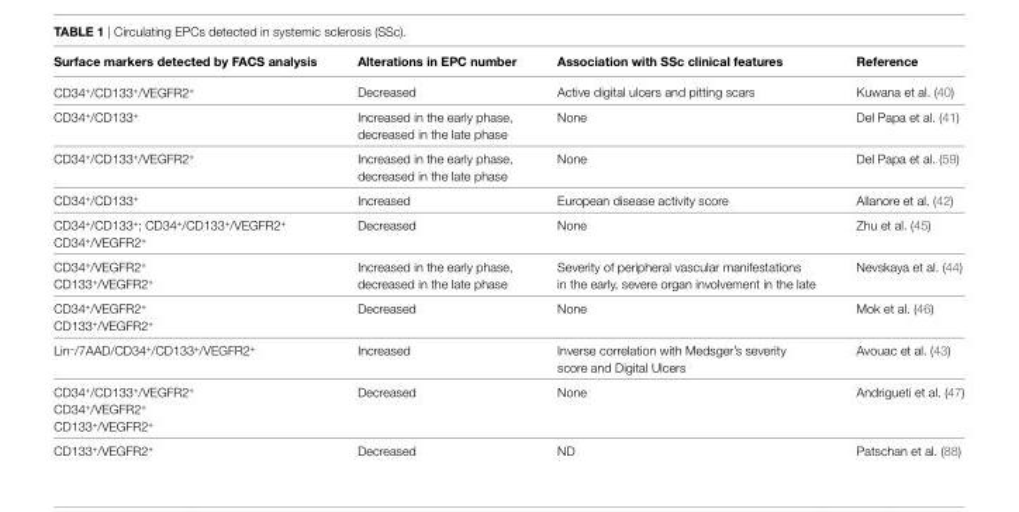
<table><thead><tr><td>Surface markers detected by FACS analysis</td><td>Alterations in ePC number</td><td>Association with SSc clinical features</td><td>Reference</td></tr></thead><tbody><tr><td>CD34<sup>+</sup>/CD133<sup>+</sup>/VEGFR2<sup>+</sup></td><td>Decreased</td><td>Active digital ulcers and pitting scars</td><td>Kuwana et al. (40)</td></tr><tr><td>CD34<sup>+</sup>/CD133<sup>+</sup></td><td>Increased in the early phase, decreased in the late phase</td><td>None</td><td>Del Papa et al. (41)</td></tr><tr><td>CD34<sup>+</sup>/CD133<sup>+</sup>/VEGFR2<sup>+</sup></td><td>Increased in the early phase, decreased in the late phase</td><td>None</td><td>Del Papa et al. (59)</td></tr><tr><td>CD34<sup>+</sup>/CD133<sup>+</sup></td><td>Increased</td><td>European disease activity score</td><td>Allanore et al. (42)</td></tr><tr><td>CD34<sup>+</sup>/CD133<sup>+</sup>; CD34<sup>+</sup>/CD133<sup>+</sup>/VEGFR2<sup>+</sup> CD34<sup>+</sup>/VEGFR2<sup>+</sup></td><td>Decreased</td><td>None</td><td>Zhu et al. (45)</td></tr><tr><td>CD34<sup>+</sup>/VEGFR2<sup>+</sup> CD133<sup>+</sup>/VEGFR2<sup>+</sup></td><td>Increased in the early phase, decreased in the late phase</td><td>Severity of peripheral vascular manifestations in the early, severe organ involvement in the late</td><td>Nevskaya et al. (44)</td></tr><tr><td>CD34<sup>+</sup>/VEGFR2<sup>+</sup> CD133<sup>+</sup>/VEGFR2<sup>+</sup></td><td>Decreased</td><td>None</td><td>Mok et al. (46)</td></tr><tr><td>Lin<sup>−</sup>/7AAD/CD34<sup>+</sup>/CD133<sup>+</sup>/VEGFR2<sup>+</sup></td><td>Increased</td><td>Inverse correlation with Medsger’s severity score and Digital Ulcers</td><td>Avouac et al. (43)</td></tr><tr><td>CD34<sup>+</sup>/CD133<sup>+</sup>/VEGFR2<sup>+</sup> CD34<sup>+</sup>/VEGFR2<sup>+</sup> CD133<sup>+</sup>/VEGFR2<sup>+</sup></td><td>Decreased</td><td>None</td><td>Andrigueti et al. (47)</td></tr><tr><td>CD133<sup>+</sup>/VEGFR2<sup>+</sup></td><td>Decreased</td><td>ND</td><td>Patschan et al. (88)</td></tr></tbody></table>